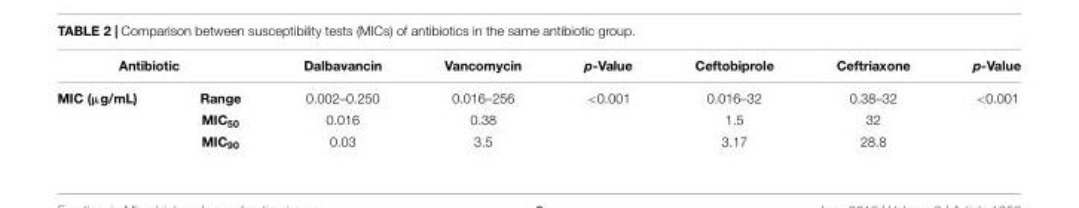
<table><thead><tr><td colspan="2">Antibiotic</td><td rowspan="2">Dalbavancin 0.002–0.250</td><td rowspan="2">Vancomycin 0.016–256</td><td rowspan="2">p-Value &lt;0.001</td><td rowspan="2">Ceftobiprole 0.016–32</td><td rowspan="2">Ceftriaxone 0.38–32</td><td rowspan="2">p-Value &lt;0.001</td></tr><tr><td>MIC (µg/mL)</td><td>Range</td></tr></thead><tbody><tr><td></td><td>MIC<sub>50</sub></td><td>0.016</td><td>0.38</td><td></td><td>1.5</td><td>32</td><td></td></tr><tr><td></td><td>MIC<sub>90</sub></td><td>0.03</td><td>3.5</td><td></td><td>3.17</td><td>28.8</td><td></td></tr></tbody></table>